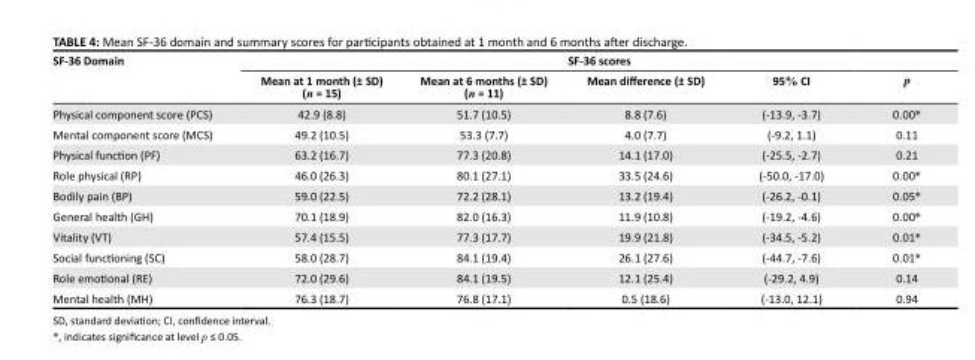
<table><thead><tr><td rowspan="2">SF-36 Domain</td><td colspan="5">SF-36 scores</td></tr><tr><td>Mean at 1 month (± SD) (n = 15)</td><td>Mean at 6 months (± SD) (n = 11)</td><td>Mean difference (± SD)</td><td>95% CI</td><td>p</td></tr></thead><tbody><tr><td>Physical component score (PCS)</td><td>42.9 (8.8)</td><td>51.7 (10.5)</td><td>8.8 (7.6)</td><td>(-13.9, -3.7)</td><td>0.00*</td></tr><tr><td>Mental component score (MCS)</td><td>49.2 (10.5)</td><td>53.3 (7.7)</td><td>4.0 (7.7)</td><td>(-9.2, 1.1)</td><td>0.11</td></tr><tr><td>Physical function (PF)</td><td>63.2 (16.7)</td><td>77.3 (20.8)</td><td>14.1 (17.0)</td><td>(-25.5, -2.7)</td><td>0.21</td></tr><tr><td>Role physical (RP)</td><td>46.0 (26.3)</td><td>80.1 (27.1)</td><td>33.5 (24.6)</td><td>(-50.0, -17.0)</td><td>0.00*</td></tr><tr><td>Bodily pain (BP)</td><td>59.0 (22.5)</td><td>72.2 (28.1)</td><td>13.2 (19.4)</td><td>(-26.2, -0.1)</td><td>0.05*</td></tr><tr><td>General health (GH)</td><td>70.1 (18.9)</td><td>82.0 (16.3)</td><td>11.9 (10.8)</td><td>(-19.2, -4.6)</td><td>0.00*</td></tr><tr><td>Vitality (VT)</td><td>57.4 (15.5)</td><td>77.3 (17.7)</td><td>19.9 (21.8)</td><td>(-34.5, -5.2)</td><td>0.01*</td></tr><tr><td>Social functioning (SC)</td><td>58.0 (28.7)</td><td>84.1 (19.4)</td><td>26.1 (27.6)</td><td>(-44.7, -7.6)</td><td>0.01*</td></tr><tr><td>Role emotional (RE)</td><td>72.0 (29.6)</td><td>84.1 (19.5)</td><td>12.1 (25.4)</td><td>(-29.2, 4.9)</td><td>0.14</td></tr><tr><td>Mental health (MH)</td><td>76.3 (18.7)</td><td>76.8 (17.1)</td><td>0.5 (18.6)</td><td>(-13.0, 12.1)</td><td>0.94</td></tr></tbody></table>